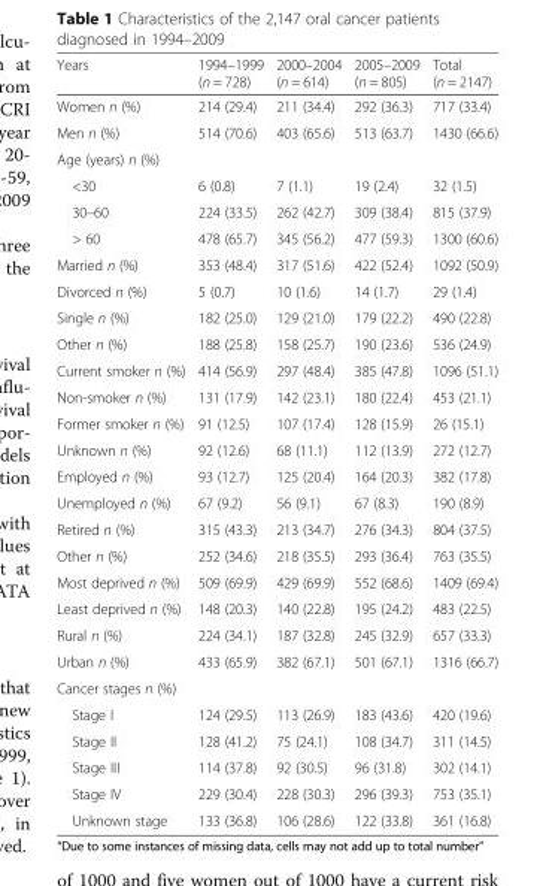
<table><thead><tr><td>Years</td><td>1994–1999 (n = 728)</td><td>2000–2004 (n = 614)</td><td>2005–2009 (n = 805)</td><td>Total (n = 2147)</td></tr></thead><tbody><tr><td>Women n (%)</td><td>214 (29.4)</td><td>211 (34.4)</td><td>292 (36.3)</td><td>717 (33.4)</td></tr><tr><td>Men n (%)</td><td>514 (70.6)</td><td>403 (65.6)</td><td>513 (63.7)</td><td>1430 (66.6)</td></tr><tr><td colspan="5">Age (years) n (%)</td></tr><tr><td>&lt;30</td><td>6 (0.8)</td><td>7 (1.1)</td><td>19 (2.4)</td><td>32 (1.5)</td></tr><tr><td>30–60</td><td>224 (33.5)</td><td>262 (42.7)</td><td>309 (38.4)</td><td>815 (37.9)</td></tr><tr><td>&gt; 60</td><td>478 (65.7)</td><td>345 (56.2)</td><td>477 (59.3)</td><td>1300 (60.6)</td></tr><tr><td>Married n (%)</td><td>353 (48.4)</td><td>317 (51.6)</td><td>422 (52.4)</td><td>1092 (50.9)</td></tr><tr><td>Divorced n (%)</td><td>5 (0.7)</td><td>10 (1.6)</td><td>14 (1.7)</td><td>29 (1.4)</td></tr><tr><td>Single n (%)</td><td>182 (25.0)</td><td>129 (21.0)</td><td>179 (22.2)</td><td>490 (22.8)</td></tr><tr><td>Other n (%)</td><td>188 (25.8)</td><td>158 (25.7)</td><td>190 (23.6)</td><td>536 (24.9)</td></tr><tr><td>Current smoker n (%)</td><td>414 (56.9)</td><td>297 (48.4)</td><td>385 (47.8)</td><td>1096 (51.1)</td></tr><tr><td>Non-smoker n (%)</td><td>131 (17.9)</td><td>142 (23.1)</td><td>180 (22.4)</td><td>453 (21.1)</td></tr><tr><td>Former smoker n (%)</td><td>91 (12.5)</td><td>107 (17.4)</td><td>128 (15.9)</td><td>26 (15.1)</td></tr><tr><td>Unknown n (%)</td><td>92 (12.6)</td><td>68 (11.1)</td><td>112 (13.9)</td><td>272 (12.7)</td></tr><tr><td>Employed n (%)</td><td>93 (12.7)</td><td>125 (20.4)</td><td>164 (20.3)</td><td>382 (17.8)</td></tr><tr><td>Unemployed n (%)</td><td>67 (9.2)</td><td>56 (9.1)</td><td>67 (8.3)</td><td>190 (8.9)</td></tr><tr><td>Retired n (%)</td><td>315 (43.3)</td><td>213 (34.7)</td><td>276 (34.3)</td><td>804 (37.5)</td></tr><tr><td>Other n (%)</td><td>252 (34.6)</td><td>218 (35.5)</td><td>293 (36.4)</td><td>763 (35.5)</td></tr><tr><td>Most deprived n (%)</td><td>509 (69.9)</td><td>429 (69.9)</td><td>552 (68.6)</td><td>1409 (69.4)</td></tr><tr><td>Least deprived n (%)</td><td>148 (20.3)</td><td>140 (22.8)</td><td>195 (24.2)</td><td>483 (22.5)</td></tr><tr><td>Rural n (%)</td><td>224 (34.1)</td><td>187 (32.8)</td><td>245 (32.9)</td><td>657 (33.3)</td></tr><tr><td>Urban n (%)</td><td>433 (65.9)</td><td>382 (67.1)</td><td>501 (67.1)</td><td>1316 (66.7)</td></tr><tr><td colspan="5">Cancer stages n (%)</td></tr><tr><td>Stage I</td><td>124 (29.5)</td><td>113 (26.9)</td><td>183 (43.6)</td><td>420 (19.6)</td></tr><tr><td>Stage II</td><td>128 (41.2)</td><td>75 (24.1)</td><td>108 (34.7)</td><td>311 (14.5)</td></tr><tr><td>Stage III</td><td>114 (37.8)</td><td>92 (30.5)</td><td>96 (31.8)</td><td>302 (14.1)</td></tr><tr><td>Stage IV</td><td>229 (30.4)</td><td>228 (30.3)</td><td>296 (39.3)</td><td>753 (35.1)</td></tr><tr><td>Unknown stage</td><td>133 (36.8)</td><td>106 (28.6)</td><td>122 (33.8)</td><td>361 (16.8)</td></tr></tbody></table>